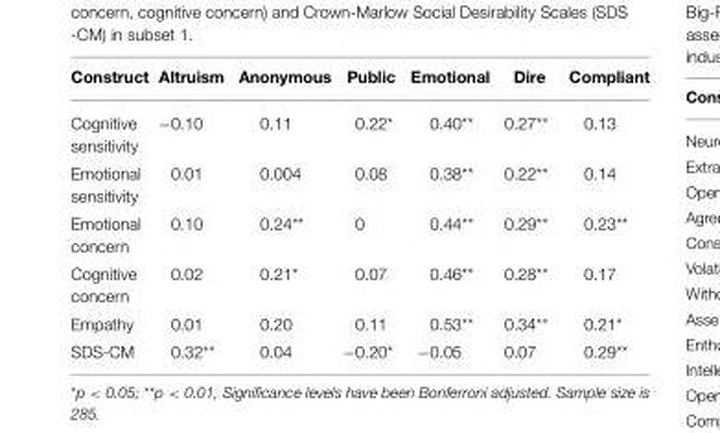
<table><thead><tr><td>Construct</td><td>Altruism</td><td>Anonymous</td><td>Public</td><td>Emotional</td><td>Dire</td><td>Compliant</td></tr></thead><tbody><tr><td>Cognitive sensitivity</td><td>−0.10</td><td>0.11</td><td>0.22*</td><td>0.40**</td><td>0.27**</td><td>0.13</td></tr><tr><td>Emotional sensitivity</td><td>0.01</td><td>0.004</td><td>0.08</td><td>0.38**</td><td>0.22**</td><td>0.14</td></tr><tr><td>Emotional concern</td><td>0.10</td><td>0.24**</td><td>0</td><td>0.44**</td><td>0.29**</td><td>0.23**</td></tr><tr><td>Cognitive concern</td><td>0.02</td><td>0.21*</td><td>0.07</td><td>0.46**</td><td>0.28**</td><td>0.17</td></tr><tr><td>Empathy</td><td>0.01</td><td>0.20</td><td>0.11</td><td>0.53**</td><td>0.34**</td><td>0.21*</td></tr><tr><td>SDS-CM</td><td>0.32**</td><td>0.04</td><td>−0.20*</td><td>−0.05</td><td>0.07</td><td>0.29**</td></tr></tbody></table>